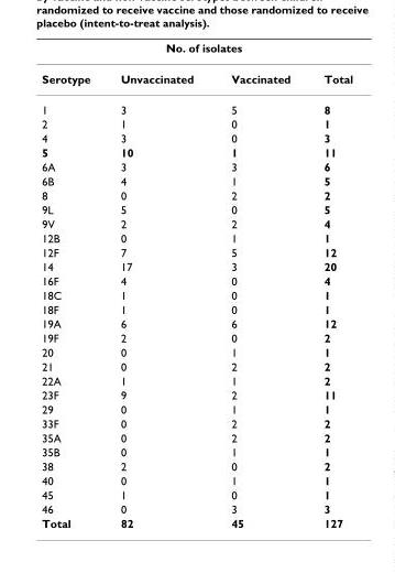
<table><thead><tr><td colspan="4">No. of isolates</td></tr><tr><td>Serotype</td><td>Unvaccinated</td><td>Vaccinated</td><td>Total</td></tr></thead><tbody><tr><td>1</td><td>3</td><td>5</td><td>8</td></tr><tr><td>2</td><td>1</td><td>0</td><td>1</td></tr><tr><td>4</td><td>3</td><td>0</td><td>3</td></tr><tr><td>5</td><td>10</td><td>1</td><td>11</td></tr><tr><td>6A</td><td>3</td><td>3</td><td>6</td></tr><tr><td>6B</td><td>4</td><td>1</td><td>5</td></tr><tr><td>8</td><td>0</td><td>2</td><td>2</td></tr><tr><td>9L</td><td>5</td><td>0</td><td>5</td></tr><tr><td>9V</td><td>2</td><td>2</td><td>4</td></tr><tr><td>12B</td><td>0</td><td>1</td><td>1</td></tr><tr><td>12F</td><td>7</td><td>5</td><td>12</td></tr><tr><td>14</td><td>17</td><td>3</td><td>20</td></tr><tr><td>16F</td><td>4</td><td>0</td><td>4</td></tr><tr><td>18C</td><td>1</td><td>0</td><td>1</td></tr><tr><td>18F</td><td>1</td><td>0</td><td>1</td></tr><tr><td>19A</td><td>6</td><td>6</td><td>12</td></tr><tr><td>19F</td><td>2</td><td>0</td><td>2</td></tr><tr><td>20</td><td>0</td><td>1</td><td>1</td></tr><tr><td>21</td><td>0</td><td>2</td><td>2</td></tr><tr><td>22A</td><td>1</td><td>1</td><td>2</td></tr><tr><td>23F</td><td>9</td><td>2</td><td>11</td></tr><tr><td>29</td><td>0</td><td>1</td><td>1</td></tr><tr><td>33F</td><td>0</td><td>2</td><td>2</td></tr><tr><td>35A</td><td>0</td><td>2</td><td>2</td></tr><tr><td>35B</td><td>0</td><td>1</td><td>1</td></tr><tr><td>38</td><td>2</td><td>0</td><td>2</td></tr><tr><td>40</td><td>0</td><td>1</td><td>1</td></tr><tr><td>45</td><td>1</td><td>0</td><td>1</td></tr><tr><td>46</td><td>0</td><td>3</td><td>3</td></tr><tr><td>Total</td><td>82</td><td>45</td><td>127</td></tr></tbody></table>